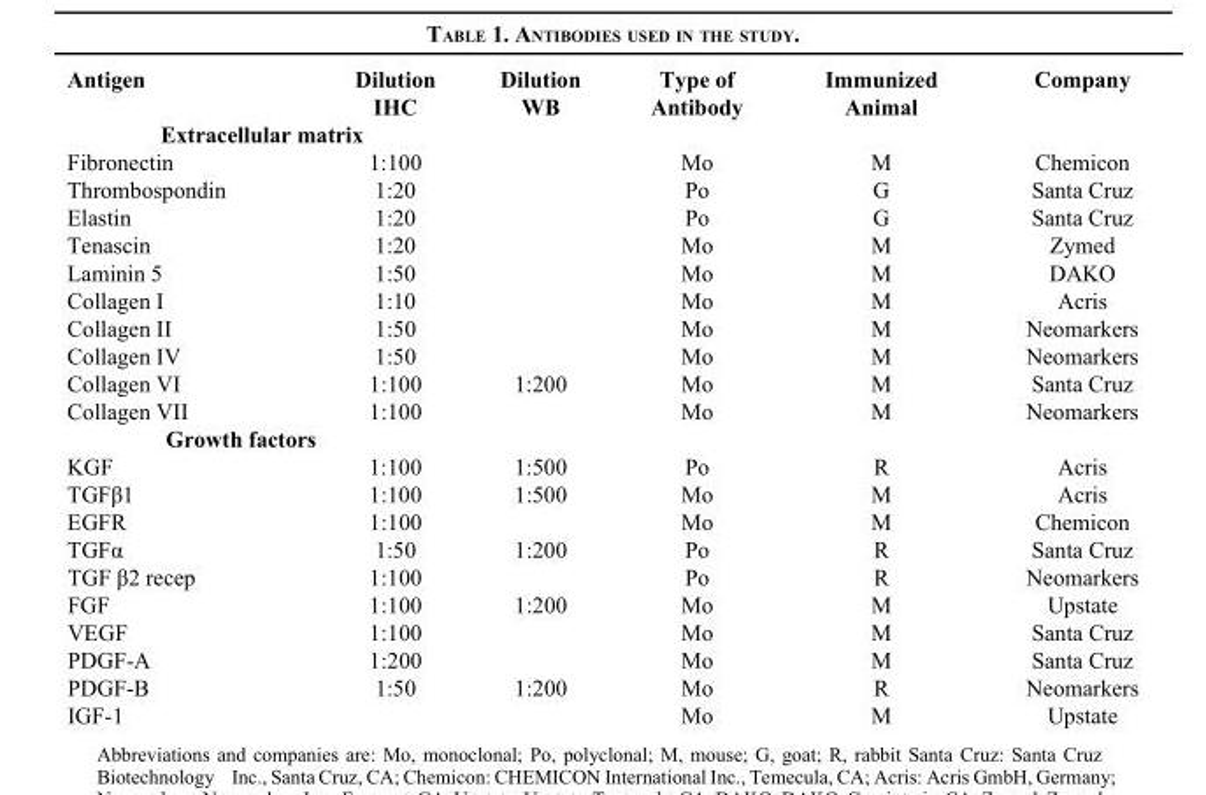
<table><thead><tr><td>Antigen</td><td>Dilution IHC</td><td>Dilution WB</td><td>Type of Antibody</td><td>Immunized Animal</td><td>Company</td></tr></thead><tbody><tr><td colspan="6">Extracellular matrix</td></tr><tr><td>Fibronectin</td><td>1:100</td><td></td><td>Mo</td><td>M</td><td>Chemicon</td></tr><tr><td>Thrombospondin</td><td>1:20</td><td></td><td>Po</td><td>G</td><td>Santa Cruz</td></tr><tr><td>Elastin</td><td>1:20</td><td></td><td>Po</td><td>G</td><td>Santa Cruz</td></tr><tr><td>Tenascin</td><td>1:20</td><td></td><td>Mo</td><td>M</td><td>Zymed</td></tr><tr><td>Laminin 5</td><td>1:50</td><td></td><td>Mo</td><td>M</td><td>DAKO</td></tr><tr><td>Collagen I</td><td>1:10</td><td></td><td>Mo</td><td>M</td><td>Acris</td></tr><tr><td>Collagen II</td><td>1:50</td><td></td><td>Mo</td><td>M</td><td>Neomarkers</td></tr><tr><td>Collagen IV</td><td>1:50</td><td></td><td>Mo</td><td>M</td><td>Neomarkers</td></tr><tr><td>Collagen VI</td><td>1:100</td><td>1:200</td><td>Mo</td><td>M</td><td>Santa Cruz</td></tr><tr><td>Collagen VII</td><td>1:100</td><td></td><td>Mo</td><td>M</td><td>Neomarkers</td></tr><tr><td colspan="6">Growth factors</td></tr><tr><td>KGF</td><td>1:100</td><td>1:500</td><td>Po</td><td>R</td><td>Acris</td></tr><tr><td>TGFβ1</td><td>1:100</td><td>1:500</td><td>Mo</td><td>M</td><td>Acris</td></tr><tr><td>EGFR</td><td>1:100</td><td></td><td>Mo</td><td>M</td><td>Chemicon</td></tr><tr><td>TGFα</td><td>1:50</td><td>1:200</td><td>Po</td><td>R</td><td>Santa Cruz</td></tr><tr><td>TGF β2 recep</td><td>1:100</td><td></td><td>Po</td><td>R</td><td>Neomarkers</td></tr><tr><td>FGF</td><td>1:100</td><td>1:200</td><td>Mo</td><td>M</td><td>Upstate</td></tr><tr><td>VEGF</td><td>1:100</td><td></td><td>Mo</td><td>M</td><td>Santa Cruz</td></tr><tr><td>PDGF-A</td><td>1:200</td><td></td><td>Mo</td><td>M</td><td>Santa Cruz</td></tr><tr><td>PDGF-B</td><td>1:50</td><td>1:200</td><td>Mo</td><td>R</td><td>Neomarkers</td></tr><tr><td>IGF-1</td><td></td><td></td><td>Mo</td><td>M</td><td>Upstate</td></tr></tbody></table>